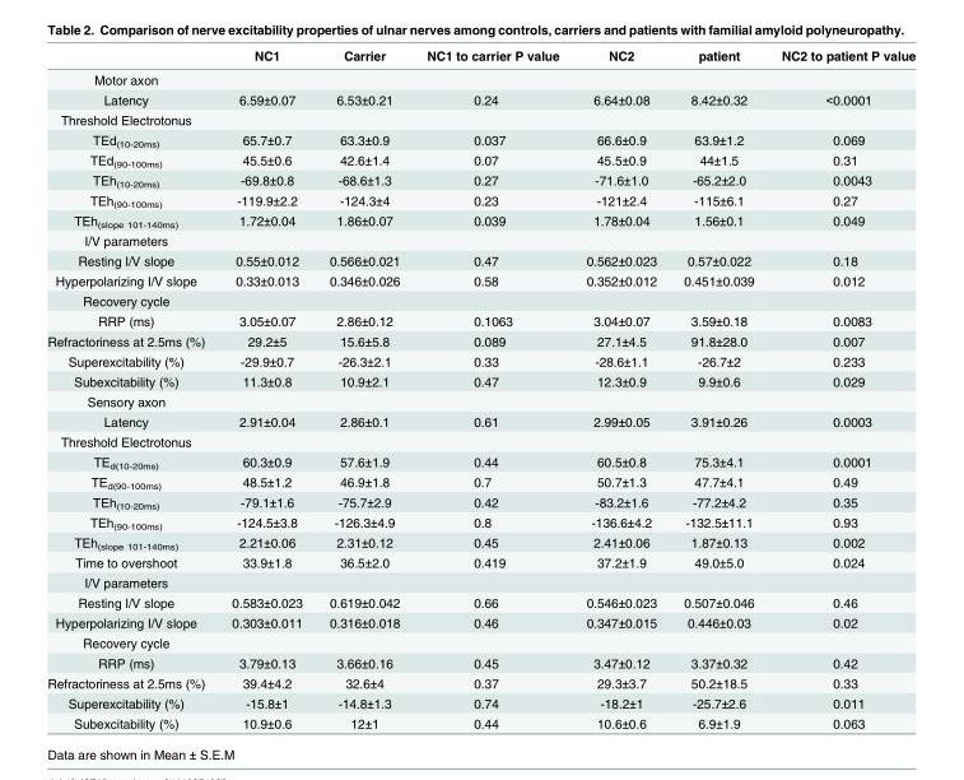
<table><thead><tr><td></td><td>NC1</td><td>Carrier</td><td>NC1 to carrier P value</td><td>NC2</td><td>patient</td><td>NC2 to patient P value</td></tr></thead><tbody><tr><td colspan="7">Motor axon</td></tr><tr><td>Latency</td><td>6.59±0.07</td><td>6.53±0.21</td><td>0.24</td><td>6.64±0.08</td><td>8.42±0.32</td><td>&lt;0.0001</td></tr><tr><td colspan="7">Threshold Electrotonus</td></tr><tr><td>TEd<sub>(10-20ms)</sub></td><td>65.7±0.7</td><td>63.3±0.9</td><td>0.037</td><td>66.6±0.9</td><td>63.9±1.2</td><td>0.069</td></tr><tr><td>TEd<sub>(90-100ms)</sub></td><td>45.5±0.6</td><td>42.6±1.4</td><td>0.07</td><td>45.5±0.9</td><td>44±1.5</td><td>0.31</td></tr><tr><td>TEh<sub>(10-20ms)</sub></td><td>-69.8±0.8</td><td>-68.6±1.3</td><td>0.27</td><td>-71.6±1.0</td><td>-65.2±2.0</td><td>0.0043</td></tr><tr><td>TEh<sub>(90-100ms)</sub></td><td>-119.9±2.2</td><td>-124.3±4</td><td>0.23</td><td>-121±2.4</td><td>-115±6.1</td><td>0.27</td></tr><tr><td>TEh<sub>(slope 101-140ms)</sub></td><td>1.72±0.04</td><td>1.86±0.07</td><td>0.039</td><td>1.78±0.04</td><td>1.56±0.1</td><td>0.049</td></tr><tr><td colspan="7">I/V parameters</td></tr><tr><td>Resting I/V slope</td><td>0.55±0.012</td><td>0.566±0.021</td><td>0.47</td><td>0.562±0.023</td><td>0.57±0.022</td><td>0.18</td></tr><tr><td>Hyperpolarizing I/V slope</td><td>0.33±0.013</td><td>0.346±0.026</td><td>0.58</td><td>0.352±0.012</td><td>0.451±0.039</td><td>0.012</td></tr><tr><td colspan="7">Recovery cycle</td></tr><tr><td>RRP (ms)</td><td>3.05±0.07</td><td>2.86±0.12</td><td>0.1063</td><td>3.04±0.07</td><td>3.59±0.18</td><td>0.0083</td></tr><tr><td>Refractoriness at 2.5ms (%)</td><td>29.2±5</td><td>15.6±5.8</td><td>0.089</td><td>27.1±4.5</td><td>91.8±28.0</td><td>0.007</td></tr><tr><td>Superexcitability (%)</td><td>-29.9±0.7</td><td>-26.3±2.1</td><td>0.33</td><td>-28.6±1.1</td><td>-26.7±2</td><td>0.233</td></tr><tr><td>Subexcitability (%)</td><td>11.3±0.8</td><td>10.9±2.1</td><td>0.47</td><td>12.3±0.9</td><td>9.9±0.6</td><td>0.029</td></tr><tr><td colspan="7">Sensory axon</td></tr><tr><td>Latency</td><td>2.91±0.04</td><td>2.86±0.1</td><td>0.61</td><td>2.99±0.05</td><td>3.91±0.26</td><td>0.0003</td></tr><tr><td colspan="7">Threshold Electrotonus</td></tr><tr><td>TE<sub>d(10-20ms)</sub></td><td>60.3±0.9</td><td>57.6±1.9</td><td>0.44</td><td>60.5±0.8</td><td>75.3±4.1</td><td>0.0001</td></tr><tr><td>TE<sub>d(90-100ms)</sub></td><td>48.5±1.2</td><td>46.9±1.8</td><td>0.7</td><td>50.7±1.3</td><td>47.7±4.1</td><td>0.49</td></tr><tr><td>TEh<sub>(10-20ms)</sub></td><td>-79.1±1.6</td><td>-75.7±2.9</td><td>0.42</td><td>-83.2±1.6</td><td>-77.2±4.2</td><td>0.35</td></tr><tr><td>TEh<sub>(90-100ms)</sub></td><td>-124.5±3.8</td><td>-126.3±4.9</td><td>0.8</td><td>-136.6±4.2</td><td>-132.5±11.1</td><td>0.93</td></tr><tr><td>TEh<sub>(slope 101-140ms)</sub></td><td>2.21±0.06</td><td>2.31±0.12</td><td>0.45</td><td>2.41±0.06</td><td>1.87±0.13</td><td>0.002</td></tr><tr><td>Time to overshoot</td><td>33.9±1.8</td><td>36.5±2.0</td><td>0.419</td><td>37.2±1.9</td><td>49.0±5.0</td><td>0.024</td></tr><tr><td colspan="7">I/V parameters</td></tr><tr><td>Resting I/V slope</td><td>0.583±0.023</td><td>0.619±0.042</td><td>0.66</td><td>0.546±0.023</td><td>0.507±0.046</td><td>0.46</td></tr><tr><td>Hyperpolarizing I/V slope</td><td>0.303±0.011</td><td>0.316±0.018</td><td>0.46</td><td>0.347±0.015</td><td>0.446±0.03</td><td>0.02</td></tr><tr><td colspan="7">Recovery cycle</td></tr><tr><td>RRP (ms)</td><td>3.79±0.13</td><td>3.66±0.16</td><td>0.45</td><td>3.47±0.12</td><td>3.37±0.32</td><td>0.42</td></tr><tr><td>Refractoriness at 2.5ms (%)</td><td>39.4±4.2</td><td>32.6±4</td><td>0.37</td><td>29.3±3.7</td><td>50.2±18.5</td><td>0.33</td></tr><tr><td>Superexcitability (%)</td><td>-15.8±1</td><td>-14.8±1.3</td><td>0.74</td><td>-18.2±1</td><td>-25.7±2.6</td><td>0.011</td></tr><tr><td>Subexcitability (%)</td><td>10.9±0.6</td><td>12±1</td><td>0.44</td><td>10.6±0.6</td><td>6.9±1.9</td><td>0.063</td></tr></tbody></table>